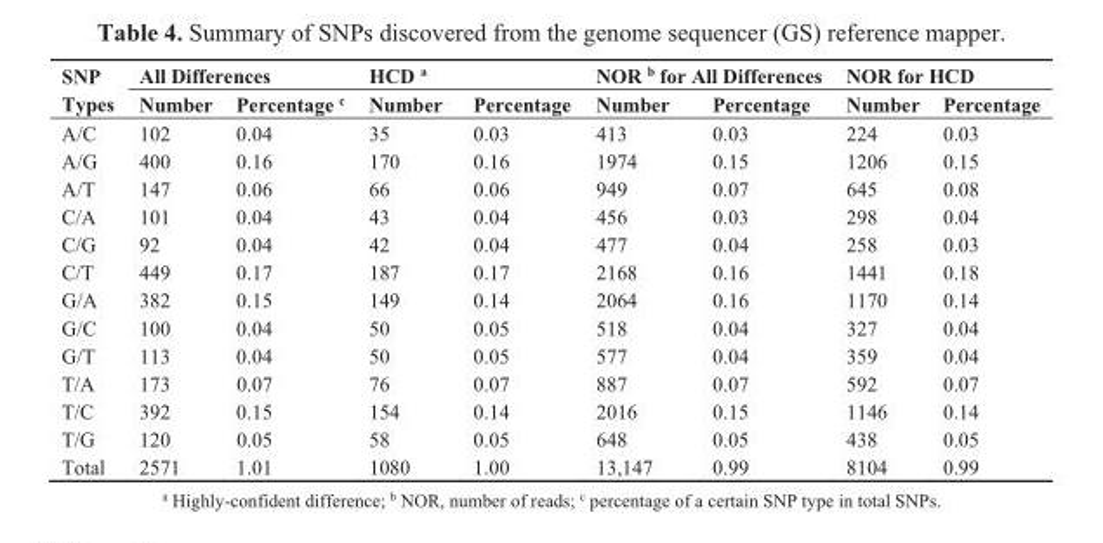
<table><thead><tr><td rowspan="2">SNP Types</td><td colspan="2">All Differences</td><td colspan="2">HCD <sup>a</sup></td><td colspan="2">NOR <sup>b</sup> for All Differences</td><td colspan="2">NOR for HCD</td></tr><tr><td>Number</td><td>Percentage <sup>c</sup></td><td>Number</td><td>Percentage</td><td>Number</td><td>Percentage</td><td>Number</td><td>Percentage</td></tr></thead><tbody><tr><td>A/C</td><td>102</td><td>0.04</td><td>35</td><td>0.03</td><td>413</td><td>0.03</td><td>224</td><td>0.03</td></tr><tr><td>A/G</td><td>400</td><td>0.16</td><td>170</td><td>0.16</td><td>1974</td><td>0.15</td><td>1206</td><td>0.15</td></tr><tr><td>A/T</td><td>147</td><td>0.06</td><td>66</td><td>0.06</td><td>949</td><td>0.07</td><td>645</td><td>0.08</td></tr><tr><td>C/A</td><td>101</td><td>0.04</td><td>43</td><td>0.04</td><td>456</td><td>0.03</td><td>298</td><td>0.04</td></tr><tr><td>C/G</td><td>92</td><td>0.04</td><td>42</td><td>0.04</td><td>477</td><td>0.04</td><td>258</td><td>0.03</td></tr><tr><td>C/T</td><td>449</td><td>0.17</td><td>187</td><td>0.17</td><td>2168</td><td>0.16</td><td>1441</td><td>0.18</td></tr><tr><td>G/A</td><td>382</td><td>0.15</td><td>149</td><td>0.14</td><td>2064</td><td>0.16</td><td>1170</td><td>0.14</td></tr><tr><td>G/C</td><td>100</td><td>0.04</td><td>50</td><td>0.05</td><td>518</td><td>0.04</td><td>327</td><td>0.04</td></tr><tr><td>G/T</td><td>113</td><td>0.04</td><td>50</td><td>0.05</td><td>577</td><td>0.04</td><td>359</td><td>0.04</td></tr><tr><td>T/A</td><td>173</td><td>0.07</td><td>76</td><td>0.07</td><td>887</td><td>0.07</td><td>592</td><td>0.07</td></tr><tr><td>T/C</td><td>392</td><td>0.15</td><td>154</td><td>0.14</td><td>2016</td><td>0.15</td><td>1146</td><td>0.14</td></tr><tr><td>T/G</td><td>120</td><td>0.05</td><td>58</td><td>0.05</td><td>648</td><td>0.05</td><td>438</td><td>0.05</td></tr><tr><td>Total</td><td>2571</td><td>1.01</td><td>1080</td><td>1.00</td><td>13,147</td><td>0.99</td><td>8104</td><td>0.99</td></tr></tbody></table>